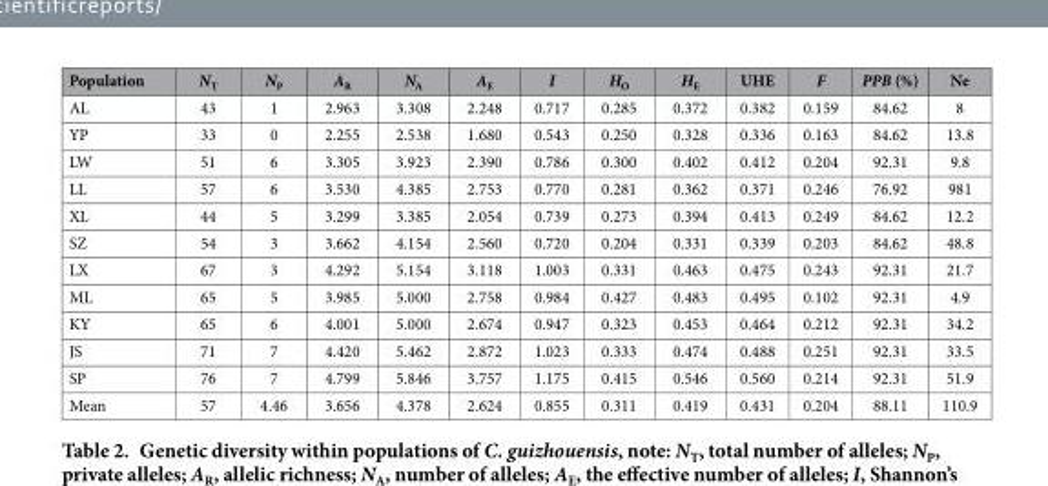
<table><thead><tr><td>Population</td><td>N<sub>T</sub></td><td>N<sub>P</sub></td><td>A<sub>R</sub></td><td>N<sub>A</sub></td><td>A<sub>E</sub></td><td>I</td><td>H<sub>O</sub></td><td>H<sub>E</sub></td><td>UHE</td><td>F</td><td>PPB (%)</td><td>Ne</td></tr></thead><tbody><tr><td>AL</td><td>43</td><td>1</td><td>2.963</td><td>3.308</td><td>2.248</td><td>0.717</td><td>0.285</td><td>0.372</td><td>0.382</td><td>0.159</td><td>84.62</td><td>8</td></tr><tr><td>YP</td><td>33</td><td>0</td><td>2.255</td><td>2.538</td><td>1.680</td><td>0.543</td><td>0.250</td><td>0.328</td><td>0.336</td><td>0.163</td><td>84.62</td><td>13.8</td></tr><tr><td>LW</td><td>51</td><td>6</td><td>3.305</td><td>3.923</td><td>2.390</td><td>0.786</td><td>0.300</td><td>0.402</td><td>0.412</td><td>0.204</td><td>92.31</td><td>9.8</td></tr><tr><td>LL</td><td>57</td><td>6</td><td>3.530</td><td>4.385</td><td>2.753</td><td>0.770</td><td>0.281</td><td>0.362</td><td>0.371</td><td>0.246</td><td>76.92</td><td>981</td></tr><tr><td>XL</td><td>44</td><td>5</td><td>3.299</td><td>3.385</td><td>2.054</td><td>0.739</td><td>0.273</td><td>0.394</td><td>0.413</td><td>0.249</td><td>84.62</td><td>12.2</td></tr><tr><td>SZ</td><td>54</td><td>3</td><td>3.662</td><td>4.154</td><td>2.560</td><td>0.720</td><td>0.204</td><td>0.331</td><td>0.339</td><td>0.203</td><td>84.62</td><td>48.8</td></tr><tr><td>LX</td><td>67</td><td>3</td><td>4.292</td><td>5.154</td><td>3.118</td><td>1.003</td><td>0.331</td><td>0.463</td><td>0.475</td><td>0.243</td><td>92.31</td><td>21.7</td></tr><tr><td>ML</td><td>65</td><td>5</td><td>3.985</td><td>5.000</td><td>2.758</td><td>0.984</td><td>0.427</td><td>0.483</td><td>0.495</td><td>0.102</td><td>92.31</td><td>4.9</td></tr><tr><td>KY</td><td>65</td><td>6</td><td>4.001</td><td>5.000</td><td>2.674</td><td>0.947</td><td>0.323</td><td>0.453</td><td>0.464</td><td>0.212</td><td>92.31</td><td>34.2</td></tr><tr><td>JS</td><td>71</td><td>7</td><td>4.420</td><td>5.462</td><td>2.872</td><td>1.023</td><td>0.333</td><td>0.474</td><td>0.488</td><td>0.251</td><td>92.31</td><td>33.5</td></tr><tr><td>SP</td><td>76</td><td>7</td><td>4.799</td><td>5.846</td><td>3.757</td><td>1.175</td><td>0.415</td><td>0.546</td><td>0.560</td><td>0.214</td><td>92.31</td><td>51.9</td></tr><tr><td>Mean</td><td>57</td><td>4.46</td><td>3.656</td><td>4.378</td><td>2.624</td><td>0.855</td><td>0.311</td><td>0.419</td><td>0.431</td><td>0.204</td><td>88.11</td><td>110.9</td></tr></tbody></table>